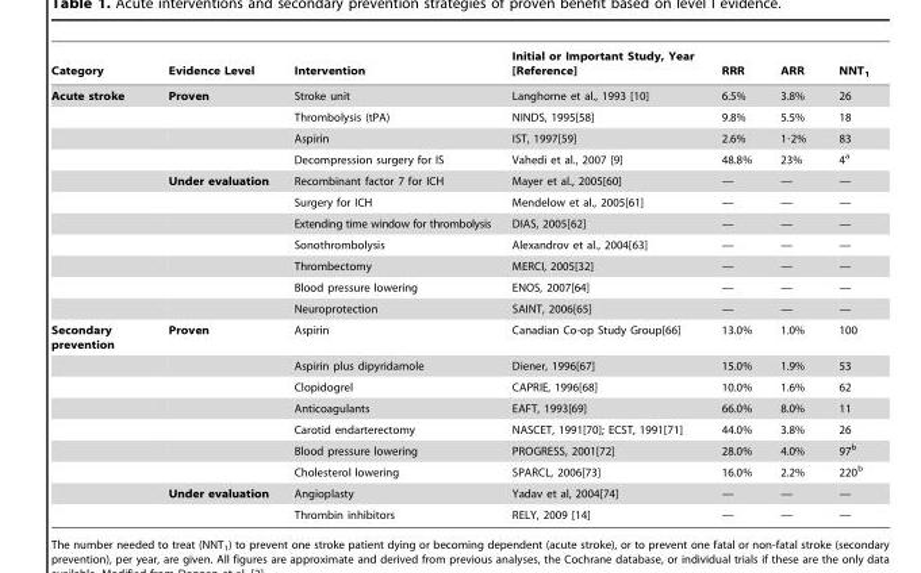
<table><thead><tr><td>Category</td><td>Evidence Level</td><td>Intervention</td><td>Initial or Important Study, Year [Reference]</td><td>RRR</td><td>ARR</td><td>NNT<sub>1</sub></td></tr></thead><tbody><tr><td rowspan="11">Acute stroke</td><td>Proven</td><td>Stroke unit</td><td>Langhorne et al., 1993 [10]</td><td>6.5%</td><td>3.8%</td><td>26</td></tr><tr><td></td><td>Thrombolysis (tPA)</td><td>NINDS, 1995[58]</td><td>9.8%</td><td>5.5%</td><td>18</td></tr><tr><td></td><td>Aspirin</td><td>IST, 1997[59]</td><td>2.6%</td><td>1·2%</td><td>83</td></tr><tr><td></td><td>Decompression surgery for IS</td><td>Vahedi et al., 2007 [9]</td><td>48.8%</td><td>23%</td><td>4<sup>a</sup></td></tr><tr><td>Under evaluation</td><td>Recombinant factor 7 for ICH</td><td>Mayer et al., 2005[60]</td><td>—</td><td>—</td><td>—</td></tr><tr><td></td><td>Surgery for ICH</td><td>Mendelow et al., 2005[61]</td><td>—</td><td>—</td><td>—</td></tr><tr><td></td><td>Extending time window for thrombolysis</td><td>DIAS, 2005[62]</td><td>—</td><td>—</td><td>—</td></tr><tr><td></td><td>Sonothrombolysis</td><td>Alexandrov et al., 2004[63]</td><td>—</td><td>—</td><td>—</td></tr><tr><td></td><td>Thrombectomy</td><td>MERCI, 2005[32]</td><td>—</td><td>—</td><td>—</td></tr><tr><td></td><td>Blood pressure lowering</td><td>ENOS, 2007[64]</td><td>—</td><td>—</td><td>—</td></tr><tr><td></td><td>Neuroprotection</td><td>SAINT, 2006[65]</td><td>—</td><td>—</td><td>—</td></tr><tr><td rowspan="9">Secondary prevention</td><td>Proven</td><td>Aspirin</td><td>Canadian Co-op Study Group[66]</td><td>13.0%</td><td>1.0%</td><td>100</td></tr><tr><td></td><td>Aspirin plus dipyridamole</td><td>Diener, 1996[67]</td><td>15.0%</td><td>1.9%</td><td>53</td></tr><tr><td></td><td>Clopidogrel</td><td>CAPRIE, 1996[68]</td><td>10.0%</td><td>1.6%</td><td>62</td></tr><tr><td></td><td>Anticoagulants</td><td>EAFT, 1993[69]</td><td>66.0%</td><td>8.0%</td><td>11</td></tr><tr><td></td><td>Carotid endarterectomy</td><td>NASCET, 1991[70]; ECST, 1991[71]</td><td>44.0%</td><td>3.8%</td><td>26</td></tr><tr><td></td><td>Blood pressure lowering</td><td>PROGRESS, 2001[72]</td><td>28.0%</td><td>4.0%</td><td>97<sup>b</sup></td></tr><tr><td></td><td>Cholesterol lowering</td><td>SPARCL, 2006[73]</td><td>16.0%</td><td>2.2%</td><td>220<sup>b</sup></td></tr><tr><td>Under evaluation</td><td>Angioplasty</td><td>Yadav et al, 2004[74]</td><td>—</td><td>—</td><td>—</td></tr><tr><td></td><td>Thrombin inhibitors</td><td>RELY, 2009 [14]</td><td>—</td><td>—</td><td>—</td></tr></tbody></table>